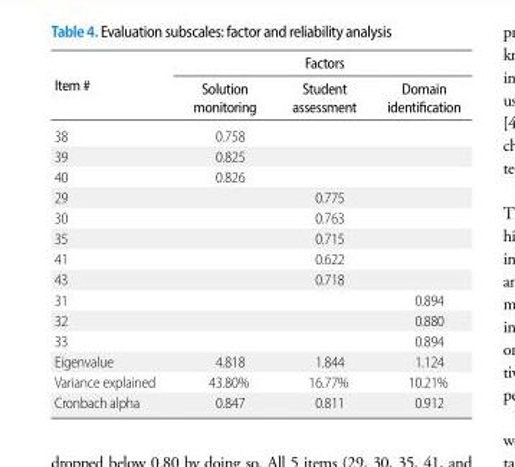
<table><thead><tr><td rowspan="2">Item #</td><td colspan="3">Factors</td></tr><tr><td>Solution monitoring</td><td>Student assessment</td><td>Domain identification</td></tr></thead><tbody><tr><td>38</td><td>0.758</td><td></td><td></td></tr><tr><td>39</td><td>0.825</td><td></td><td></td></tr><tr><td>40</td><td>0.826</td><td></td><td></td></tr><tr><td>29</td><td></td><td>0.775</td><td></td></tr><tr><td>30</td><td></td><td>0.763</td><td></td></tr><tr><td>35</td><td></td><td>0.715</td><td></td></tr><tr><td>41</td><td></td><td>0.622</td><td></td></tr><tr><td>43</td><td></td><td>0.718</td><td></td></tr><tr><td>31</td><td></td><td></td><td>0.894</td></tr><tr><td>32</td><td></td><td></td><td>0.880</td></tr><tr><td>33</td><td></td><td></td><td>0.894</td></tr><tr><td>Eigenvalue</td><td>4.818</td><td>1.844</td><td>1.124</td></tr><tr><td>Variance explained</td><td>43.80%</td><td>16.77%</td><td>10.21%</td></tr><tr><td>Cronbach alpha</td><td>0.847</td><td>0.811</td><td>0.912</td></tr></tbody></table>